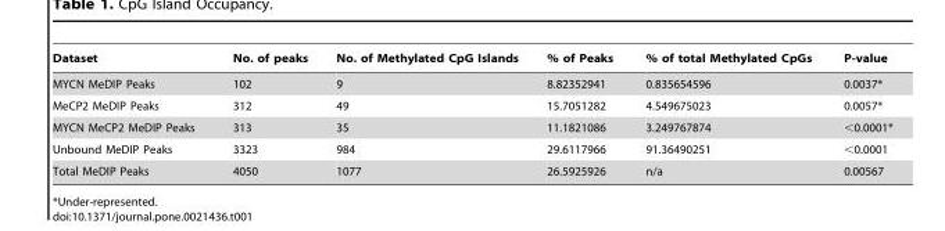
<table><thead><tr><td>Dataset</td><td>No. of peaks</td><td>No. of Methylated CpG Islands</td><td>% of Peaks</td><td>% of total Methylated CpGs</td><td>P-value</td></tr></thead><tbody><tr><td>MYCN MeDIP Peaks</td><td>102</td><td>9</td><td>8.82352941</td><td>0.835654596</td><td>0.0037*</td></tr><tr><td>MeCP2 MeDIP Peaks</td><td>312</td><td>49</td><td>15.7051282</td><td>4.549675023</td><td>0.0057*</td></tr><tr><td>MYCN MeCP2 MeDIP Peaks</td><td>313</td><td>35</td><td>11.1821086</td><td>3.249767874</td><td>&lt;0.0001*</td></tr><tr><td>Unbound MeDIP Peaks</td><td>3323</td><td>984</td><td>29.6117966</td><td>91.36490251</td><td>&lt;0.0001</td></tr><tr><td>Total MeDIP Peaks</td><td>4050</td><td>1077</td><td>26.5925926</td><td>n/a</td><td>0.00567</td></tr></tbody></table>